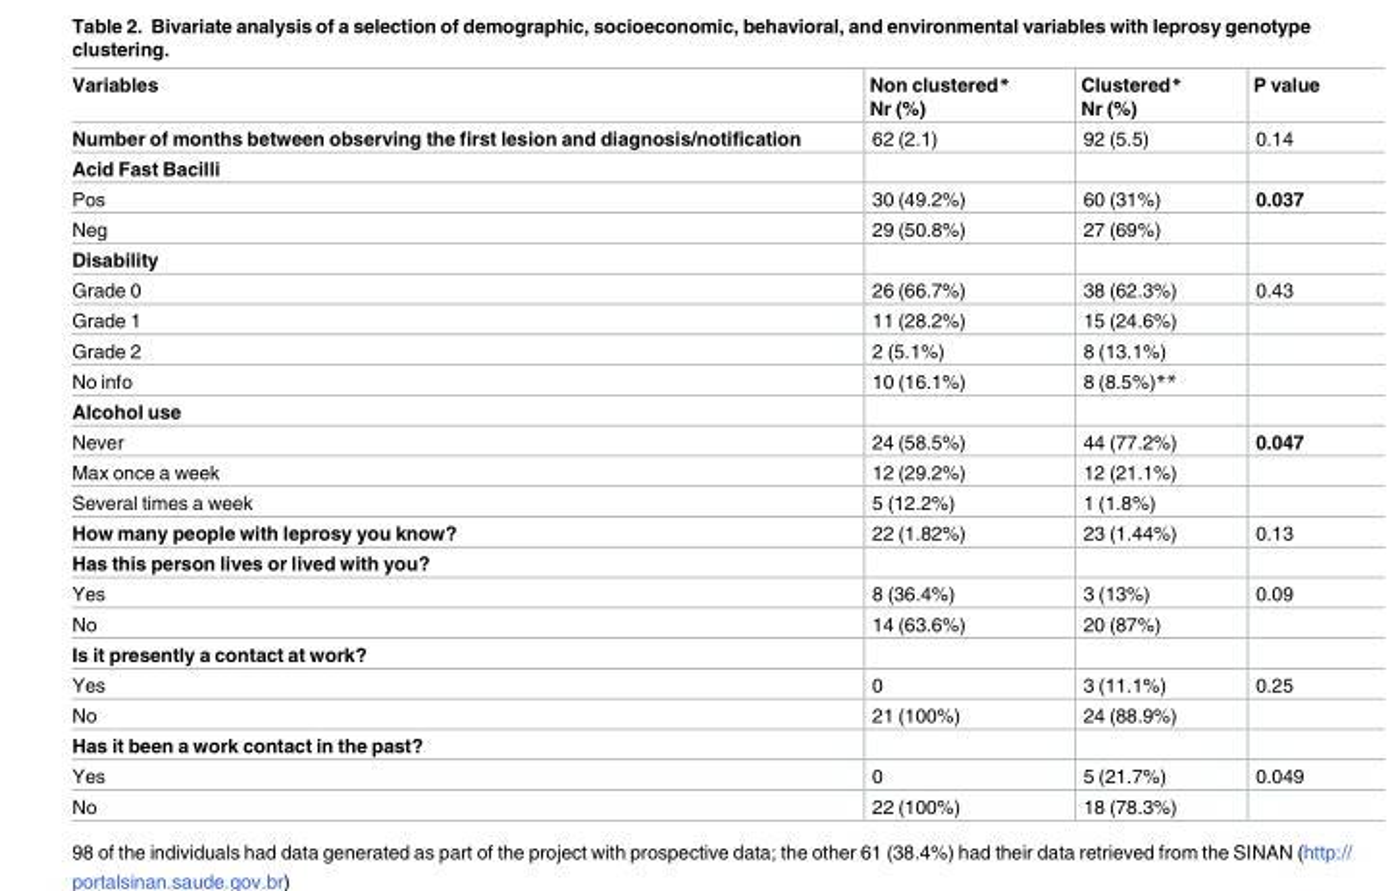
<table><thead><tr><td>Variables</td><td>Non clustered* Nr (%)</td><td>Clustered* Nr (%)</td><td>P value</td></tr></thead><tbody><tr><td>Number of months between observing the first lesion and diagnosis/notification</td><td>62 (2.1)</td><td>92 (5.5)</td><td>0.14</td></tr><tr><td colspan="4">Acid Fast Bacilli</td></tr><tr><td>Pos</td><td>30 (49.2%)</td><td>60 (31%)</td><td>0.037</td></tr><tr><td>Neg</td><td>29 (50.8%)</td><td>27 (69%)</td><td></td></tr><tr><td colspan="4">Disability</td></tr><tr><td>Grade 0</td><td>26 (66.7%)</td><td>38 (62.3%)</td><td>0.43</td></tr><tr><td>Grade 1</td><td>11 (28.2%)</td><td>15 (24.6%)</td><td></td></tr><tr><td>Grade 2</td><td>2 (5.1%)</td><td>8 (13.1%)</td><td></td></tr><tr><td>No info</td><td>10 (16.1%)</td><td>8 (8.5%)**</td><td></td></tr><tr><td colspan="4">Alcohol use</td></tr><tr><td>Never</td><td>24 (58.5%)</td><td>44 (77.2%)</td><td>0.047</td></tr><tr><td>Max once a week</td><td>12 (29.2%)</td><td>12 (21.1%)</td><td></td></tr><tr><td>Several times a week</td><td>5 (12.2%)</td><td>1 (1.8%)</td><td></td></tr><tr><td>How many people with leprosy you know?</td><td>22 (1.82%)</td><td>23 (1.44%)</td><td>0.13</td></tr><tr><td colspan="4">Has this person lives or lived with you?</td></tr><tr><td>Yes</td><td>8 (36.4%)</td><td>3 (13%)</td><td>0.09</td></tr><tr><td>No</td><td>14 (63.6%)</td><td>20 (87%)</td><td></td></tr><tr><td colspan="4">Is it presently a contact at work?</td></tr><tr><td>Yes</td><td>0</td><td>3 (11.1%)</td><td>0.25</td></tr><tr><td>No</td><td>21 (100%)</td><td>24 (88.9%)</td><td></td></tr><tr><td colspan="4">Has it been a work contact in the past?</td></tr><tr><td>Yes</td><td>0</td><td>5 (21.7%)</td><td>0.049</td></tr><tr><td>No</td><td>22 (100%)</td><td>18 (78.3%)</td><td></td></tr></tbody></table>